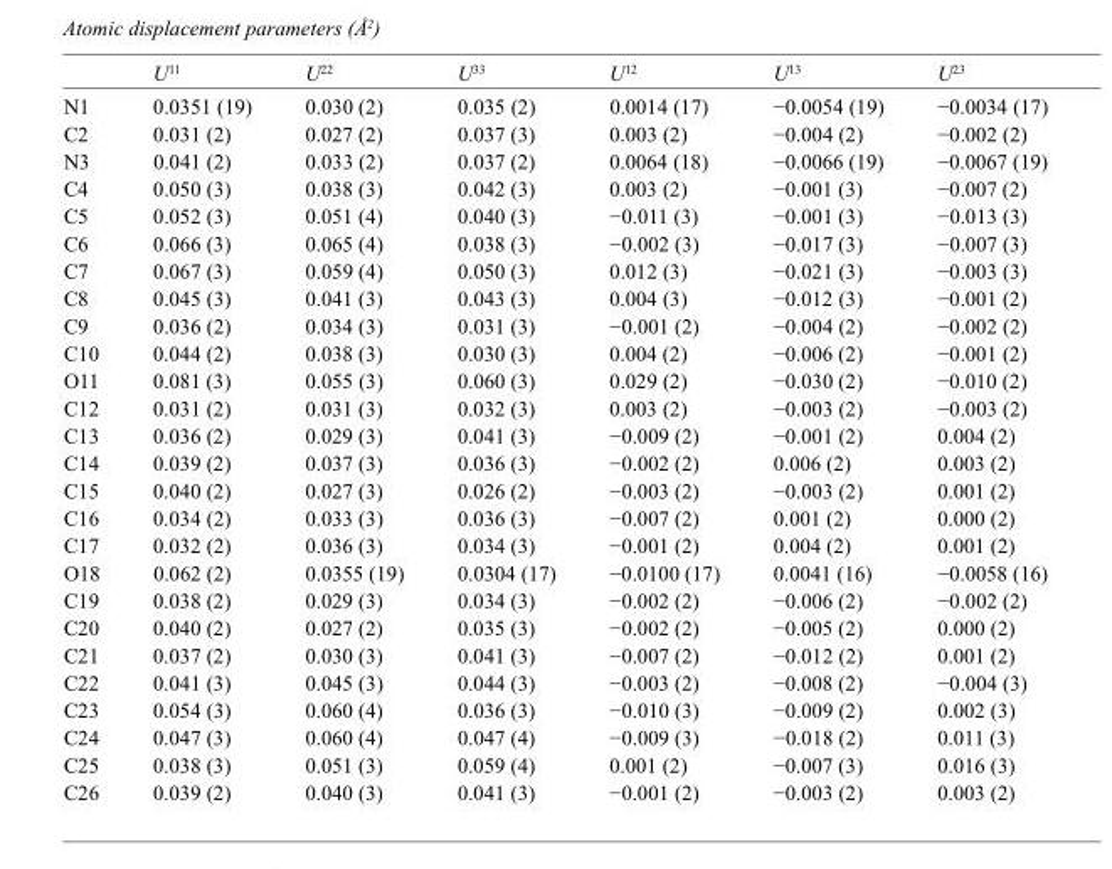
<table><thead><tr><td></td><td>U<sup>11</sup></td><td>U<sup>22</sup></td><td>U<sup>33</sup></td><td>U<sup>12</sup></td><td>U<sup>13</sup></td><td>U<sup>23</sup></td></tr></thead><tbody><tr><td>N1</td><td>0.0351 (19)</td><td>0.030 (2)</td><td>0.035 (2)</td><td>0.0014 (17)</td><td>−0.0054 (19)</td><td>−0.0034 (17)</td></tr><tr><td>C2</td><td>0.031 (2)</td><td>0.027 (2)</td><td>0.037 (3)</td><td>0.003 (2)</td><td>−0.004 (2)</td><td>−0.002 (2)</td></tr><tr><td>N3</td><td>0.041 (2)</td><td>0.033 (2)</td><td>0.037 (2)</td><td>0.0064 (18)</td><td>−0.0066 (19)</td><td>−0.0067 (19)</td></tr><tr><td>C4</td><td>0.050 (3)</td><td>0.038 (3)</td><td>0.042 (3)</td><td>0.003 (2)</td><td>−0.001 (3)</td><td>−0.007 (2)</td></tr><tr><td>C5</td><td>0.052 (3)</td><td>0.051 (4)</td><td>0.040 (3)</td><td>−0.011 (3)</td><td>−0.001 (3)</td><td>−0.013 (3)</td></tr><tr><td>C6</td><td>0.066 (3)</td><td>0.065 (4)</td><td>0.038 (3)</td><td>−0.002 (3)</td><td>−0.017 (3)</td><td>−0.007 (3)</td></tr><tr><td>C7</td><td>0.067 (3)</td><td>0.059 (4)</td><td>0.050 (3)</td><td>0.012 (3)</td><td>−0.021 (3)</td><td>−0.003 (3)</td></tr><tr><td>C8</td><td>0.045 (3)</td><td>0.041 (3)</td><td>0.043 (3)</td><td>0.004 (3)</td><td>−0.012 (3)</td><td>−0.001 (2)</td></tr><tr><td>C9</td><td>0.036 (2)</td><td>0.034 (3)</td><td>0.031 (3)</td><td>−0.001 (2)</td><td>−0.004 (2)</td><td>−0.002 (2)</td></tr><tr><td>C10</td><td>0.044 (2)</td><td>0.038 (3)</td><td>0.030 (3)</td><td>0.004 (2)</td><td>−0.006 (2)</td><td>−0.001 (2)</td></tr><tr><td>O11</td><td>0.081 (3)</td><td>0.055 (3)</td><td>0.060 (3)</td><td>0.029 (2)</td><td>−0.030 (2)</td><td>−0.010 (2)</td></tr><tr><td>C12</td><td>0.031 (2)</td><td>0.031 (3)</td><td>0.032 (3)</td><td>0.003 (2)</td><td>−0.003 (2)</td><td>−0.003 (2)</td></tr><tr><td>C13</td><td>0.036 (2)</td><td>0.029 (3)</td><td>0.041 (3)</td><td>−0.009 (2)</td><td>−0.001 (2)</td><td>0.004 (2)</td></tr><tr><td>C14</td><td>0.039 (2)</td><td>0.037 (3)</td><td>0.036 (3)</td><td>−0.002 (2)</td><td>0.006 (2)</td><td>0.003 (2)</td></tr><tr><td>C15</td><td>0.040 (2)</td><td>0.027 (3)</td><td>0.026 (2)</td><td>−0.003 (2)</td><td>−0.003 (2)</td><td>0.001 (2)</td></tr><tr><td>C16</td><td>0.034 (2)</td><td>0.033 (3)</td><td>0.036 (3)</td><td>−0.007 (2)</td><td>0.001 (2)</td><td>0.000 (2)</td></tr><tr><td>C17</td><td>0.032 (2)</td><td>0.036 (3)</td><td>0.034 (3)</td><td>−0.001 (2)</td><td>0.004 (2)</td><td>0.001 (2)</td></tr><tr><td>O18</td><td>0.062 (2)</td><td>0.0355 (19)</td><td>0.0304 (17)</td><td>−0.0100 (17)</td><td>0.0041 (16)</td><td>−0.0058 (16)</td></tr><tr><td>C19</td><td>0.038 (2)</td><td>0.029 (3)</td><td>0.034 (3)</td><td>−0.002 (2)</td><td>−0.006 (2)</td><td>−0.002 (2)</td></tr><tr><td>C20</td><td>0.040 (2)</td><td>0.027 (2)</td><td>0.035 (3)</td><td>−0.002 (2)</td><td>−0.005 (2)</td><td>0.000 (2)</td></tr><tr><td>C21</td><td>0.037 (2)</td><td>0.030 (3)</td><td>0.041 (3)</td><td>−0.007 (2)</td><td>−0.012 (2)</td><td>0.001 (2)</td></tr><tr><td>C22</td><td>0.041 (3)</td><td>0.045 (3)</td><td>0.044 (3)</td><td>−0.003 (2)</td><td>−0.008 (2)</td><td>−0.004 (3)</td></tr><tr><td>C23</td><td>0.054 (3)</td><td>0.060 (4)</td><td>0.036 (3)</td><td>−0.010 (3)</td><td>−0.009 (2)</td><td>0.002 (3)</td></tr><tr><td>C24</td><td>0.047 (3)</td><td>0.060 (4)</td><td>0.047 (4)</td><td>−0.009 (3)</td><td>−0.018 (2)</td><td>0.011 (3)</td></tr><tr><td>C25</td><td>0.038 (3)</td><td>0.051 (3)</td><td>0.059 (4)</td><td>0.001 (2)</td><td>−0.007 (3)</td><td>0.016 (3)</td></tr><tr><td>C26</td><td>0.039 (2)</td><td>0.040 (3)</td><td>0.041 (3)</td><td>−0.001 (2)</td><td>−0.003 (2)</td><td>0.003 (2)</td></tr></tbody></table>